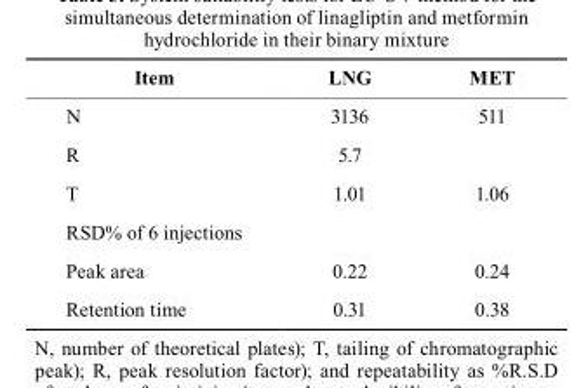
<table><thead><tr><td>Item</td><td>LNG</td><td>MEt</td></tr></thead><tbody><tr><td>N</td><td>3136</td><td>511</td></tr><tr><td>R</td><td>5.7</td><td></td></tr><tr><td>T</td><td>1.01</td><td>1.06</td></tr><tr><td colspan="3">RSD% of 6 injections</td></tr><tr><td>Peak area</td><td>0.22</td><td>0.24</td></tr><tr><td>Retention time</td><td>0.31</td><td>0.38</td></tr></tbody></table>